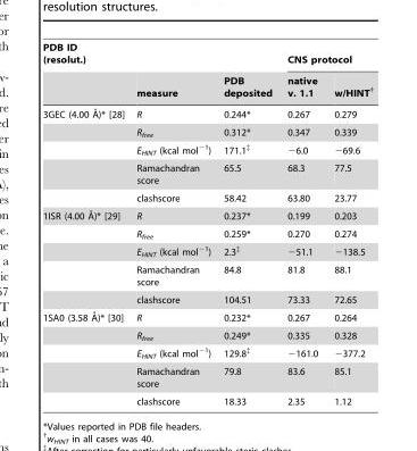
<table><thead><tr><td rowspan="2">PDB ID (resolut.)</td><td rowspan="2">measure</td><td rowspan="2">PDB deposited</td><td colspan="2">CNS protocol</td></tr><tr><td>native v. 1.1</td><td>w/HINT†</td></tr></thead><tbody><tr><td rowspan="5">3GEC (4.00 A˚)* [28]</td><td>R</td><td>0.244*</td><td>0.267</td><td>0.279</td></tr><tr><td>R<sub>free</sub></td><td>0.312*</td><td>0.347</td><td>0.339</td></tr><tr><td>E<sub>HINT</sub> (kcal mol<sup>−1</sup>)</td><td>171.1‡</td><td>−6.0</td><td>−69.6</td></tr><tr><td>Ramachandran score</td><td>65.5</td><td>68.3</td><td>77.5</td></tr><tr><td>clashscore</td><td>58.42</td><td>63.80</td><td>23.77</td></tr><tr><td rowspan="5">1ISR (4.00 A˚)* [29]</td><td>R</td><td>0.237*</td><td>0.199</td><td>0.203</td></tr><tr><td>R<sub>free</sub></td><td>0.259*</td><td>0.270</td><td>0.274</td></tr><tr><td>E<sub>HINT</sub> (kcal mol<sup>−1</sup>)</td><td>2.3‡</td><td>−51.1</td><td>−138.5</td></tr><tr><td>Ramachandran score</td><td>84.8</td><td>81.8</td><td>88.1</td></tr><tr><td>clashscore</td><td>104.51</td><td>73.33</td><td>72.65</td></tr><tr><td rowspan="5">1SA0 (3.58 A˚)* [30]</td><td>R</td><td>0.232*</td><td>0.267</td><td>0.264</td></tr><tr><td>R<sub>free</sub></td><td>0.249*</td><td>0.335</td><td>0.328</td></tr><tr><td>E<sub>HINT</sub> (kcal mol<sup>−1</sup>)</td><td>129.8‡</td><td>−161.0</td><td>−377.2</td></tr><tr><td>Ramachandran score</td><td>79.8</td><td>83.6</td><td>85.1</td></tr><tr><td>clashscore</td><td>18.33</td><td>2.35</td><td>1.12</td></tr></tbody></table>